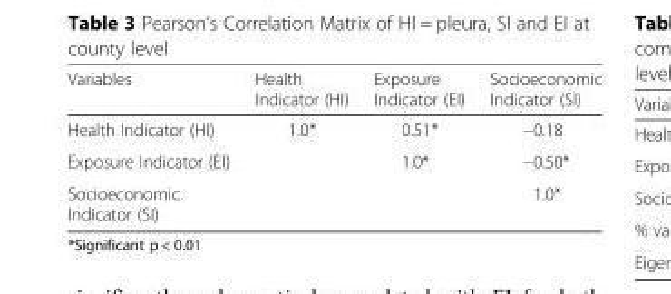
<table><thead><tr><td>Variables</td><td>Health Indicator (HI)</td><td>Exposure Indicator (EI)</td><td>Socioeconomic Indicator (SI)</td></tr></thead><tbody><tr><td>Health Indicator (HI)</td><td>1.0*</td><td>0.51*</td><td>−0.18</td></tr><tr><td>Exposure Indicator (EI)</td><td></td><td>1.0*</td><td>−0.50*</td></tr><tr><td>Socioeconomic Indicator (SI)</td><td></td><td></td><td>1.0*</td></tr></tbody></table>